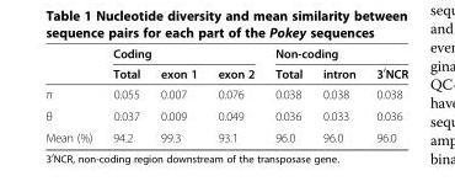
<table><thead><tr><td rowspan="2"></td><td colspan="3">Coding</td><td colspan="3">Non-coding</td></tr><tr><td>Total</td><td>exon 1</td><td>exon 2</td><td>Total</td><td>intron</td><td>3<sup>′</sup>NCR</td></tr></thead><tbody><tr><td>π</td><td>0.055</td><td>0.007</td><td>0.076</td><td>0.038</td><td>0.038</td><td>0.038</td></tr><tr><td>θ</td><td>0.037</td><td>0.009</td><td>0.049</td><td>0.036</td><td>0.033</td><td>0.036</td></tr><tr><td>Mean (%)</td><td>94.2</td><td>99.3</td><td>93.1</td><td>96.0</td><td>96.0</td><td>96.0</td></tr></tbody></table>